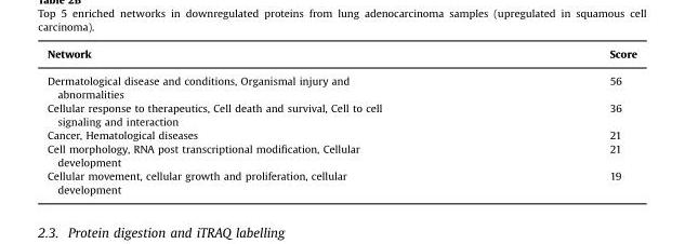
<table><thead><tr><td>Network</td><td>Score</td></tr></thead><tbody><tr><td>Dermatological disease and conditions, Organismal injury and abnormalities</td><td>56</td></tr><tr><td>Cellular response to therapeutics, Cell death and survival, Cell to cell signaling and interaction</td><td>36</td></tr><tr><td>Cancer, Hematological diseases</td><td>21</td></tr><tr><td>Cell morphology, RNA post transcriptional modification, Cellular development</td><td>21</td></tr><tr><td>Cellular movement, cellular growth and proliferation, cellular development</td><td>19</td></tr></tbody></table>